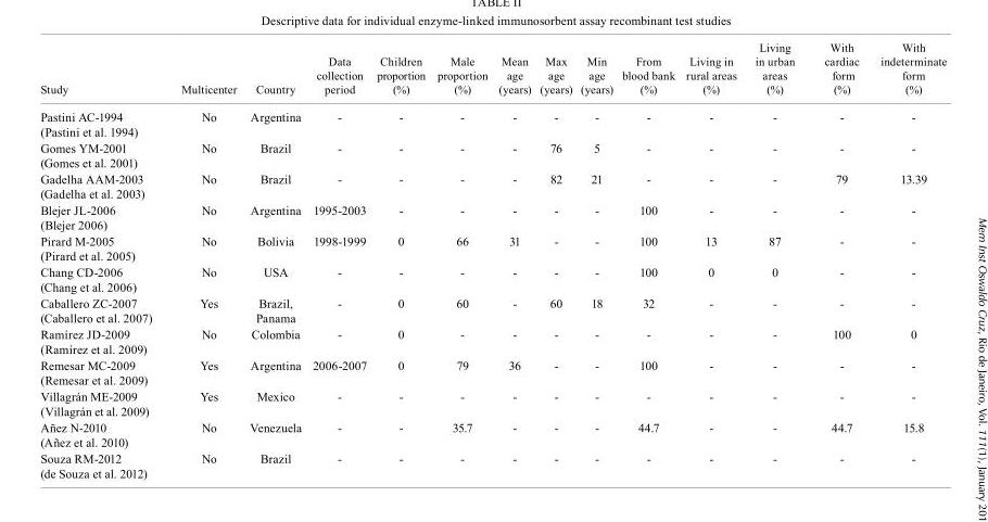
<table><thead><tr><td>Study</td><td>Multicenter</td><td>Country</td><td>Data collection period</td><td>Children proportion (%)</td><td>Male proportion (%)</td><td>Mean age (years)</td><td>Max age (years)</td><td>Min age (years)</td><td>From blood bank (%)</td><td>Living in rural areas (%)</td><td>Living in urban areas (%)</td><td>With cardiac form (%)</td><td>With indeterminate form (%)</td></tr></thead><tbody><tr><td>Pastini AC-1994 (Pastini et al. 1994)</td><td>No</td><td>Argentina</td><td>-</td><td>-</td><td>-</td><td>-</td><td>-</td><td>-</td><td>-</td><td>-</td><td>-</td><td>-</td><td>-</td></tr><tr><td>Gomes YM-2001 (Gomes et al. 2001)</td><td>No</td><td>Brazil</td><td>-</td><td>-</td><td>-</td><td>-</td><td>76</td><td>5</td><td>-</td><td>-</td><td>-</td><td>-</td><td>-</td></tr><tr><td>Gadelha AAM-2003 (Gadelha et al. 2003)</td><td>No</td><td>Brazil</td><td>-</td><td>-</td><td>-</td><td>-</td><td>82</td><td>21</td><td>-</td><td>-</td><td>-</td><td>79</td><td>13.39</td></tr><tr><td>Blejer JL-2006 (Blejer 2006)</td><td>No</td><td>Argentina</td><td>1995-2003</td><td>-</td><td>-</td><td>-</td><td>-</td><td>-</td><td>100</td><td>-</td><td>-</td><td>-</td><td>-</td></tr><tr><td>Pirard M-2005 (Pirard et al. 2005)</td><td>No</td><td>Bolivia</td><td>1998-1999</td><td>0</td><td>66</td><td>31</td><td>-</td><td>-</td><td>100</td><td>13</td><td>87</td><td>-</td><td>-</td></tr><tr><td>Chang CD-2006 (Chang et al. 2006)</td><td>No</td><td>USA</td><td>-</td><td>-</td><td>-</td><td>-</td><td>-</td><td>-</td><td>100</td><td>0</td><td>0</td><td>-</td><td>-</td></tr><tr><td>Caballero ZC-2007 (Caballero et al. 2007)</td><td>Yes</td><td>Brazil, Panama</td><td>-</td><td>0</td><td>60</td><td>-</td><td>60</td><td>18</td><td>32</td><td>-</td><td>-</td><td>-</td><td>-</td></tr><tr><td>Ramírez JD-2009 (Ramírez et al. 2009)</td><td>No</td><td>Colombia</td><td>-</td><td>0</td><td>-</td><td>-</td><td>-</td><td>-</td><td>-</td><td>-</td><td>-</td><td>100</td><td>0</td></tr><tr><td>Remesar MC-2009 (Remesar et al. 2009)</td><td>Yes</td><td>Argentina</td><td>2006-2007</td><td>0</td><td>79</td><td>36</td><td>-</td><td>-</td><td>100</td><td>-</td><td>-</td><td>-</td><td>-</td></tr><tr><td>Villagrán ME-2009 (Villagrán et al. 2009)</td><td>Yes</td><td>Mexico</td><td>-</td><td>-</td><td>-</td><td>-</td><td>-</td><td>-</td><td>-</td><td>-</td><td>-</td><td>-</td><td>-</td></tr><tr><td>Añez N-2010 (Añez et al. 2010)</td><td>No</td><td>Venezuela</td><td>-</td><td>-</td><td>35.7</td><td>-</td><td>-</td><td>-</td><td>44.7</td><td>-</td><td>-</td><td>44.7</td><td>15.8</td></tr><tr><td>Souza RM-2012 (de Souza et al. 2012)</td><td>No</td><td>Brazil</td><td>-</td><td>-</td><td>-</td><td>-</td><td>-</td><td>-</td><td>-</td><td>-</td><td>-</td><td>-</td><td>-</td></tr></tbody></table>